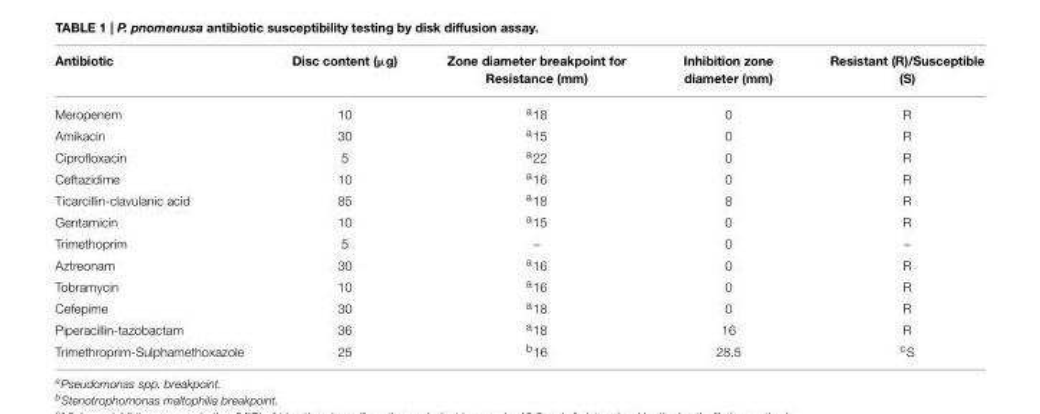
<table><thead><tr><td>Antibiotic</td><td>Disc content (µg)</td><td>Zone diameter breakpoint for Resistance (mm)</td><td>Inhibition zone diameter (mm)</td><td>Resistant (R)/Susceptible (S)</td></tr></thead><tbody><tr><td>Meropenem</td><td>10</td><td><sup>a</sup>18</td><td>0</td><td>R</td></tr><tr><td>Amikacin</td><td>30</td><td><sup>a</sup>15</td><td>0</td><td>R</td></tr><tr><td>Ciprofloxacin</td><td>5</td><td><sup>a</sup>22</td><td>0</td><td>R</td></tr><tr><td>Ceftazidime</td><td>10</td><td><sup>a</sup>16</td><td>0</td><td>R</td></tr><tr><td>Ticarcillin-clavulanic acid</td><td>85</td><td><sup>a</sup>18</td><td>8</td><td>R</td></tr><tr><td>Gentamicin</td><td>10</td><td><sup>a</sup>15</td><td>0</td><td>R</td></tr><tr><td>Trimethoprim</td><td>5</td><td>–</td><td>0</td><td>–</td></tr><tr><td>Aztreonam</td><td>30</td><td><sup>a</sup>16</td><td>0</td><td>R</td></tr><tr><td>Tobramycin</td><td>10</td><td><sup>a</sup>16</td><td>0</td><td>R</td></tr><tr><td>Cefepime</td><td>30</td><td><sup>a</sup>18</td><td>0</td><td>R</td></tr><tr><td>Piperacillin-tazobactam</td><td>36</td><td><sup>a</sup>18</td><td>16</td><td>R</td></tr><tr><td>Trimethroprim-Sulphamethoxazole</td><td>25</td><td><sup>b</sup>16</td><td>28.5</td><td><sup>c</sup>S</td></tr></tbody></table>